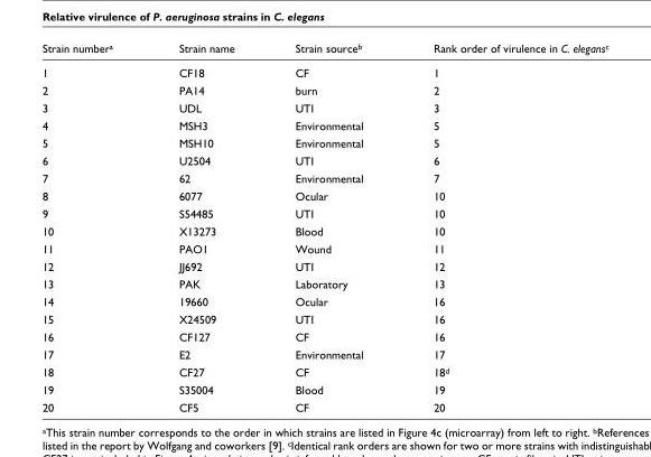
<table><thead><tr><td>Strain numbera</td><td>Strain name</td><td>Strain sourceb</td><td>Rank order of virulence in C. elegansc</td></tr></thead><tbody><tr><td>1</td><td>CF18</td><td>CF</td><td>1</td></tr><tr><td>2</td><td>PA14</td><td>burn</td><td>2</td></tr><tr><td>3</td><td>UDL</td><td>UTI</td><td>3</td></tr><tr><td>4</td><td>MSH3</td><td>Environmental</td><td>5</td></tr><tr><td>5</td><td>MSH10</td><td>Environmental</td><td>5</td></tr><tr><td>6</td><td>U2504</td><td>UTI</td><td>6</td></tr><tr><td>7</td><td>62</td><td>Environmental</td><td>7</td></tr><tr><td>8</td><td>6077</td><td>Ocular</td><td>10</td></tr><tr><td>9</td><td>S54485</td><td>UTI</td><td>10</td></tr><tr><td>10</td><td>X13273</td><td>Blood</td><td>10</td></tr><tr><td>11</td><td>PAO1</td><td>Wound</td><td>11</td></tr><tr><td>12</td><td>JJ692</td><td>UTI</td><td>12</td></tr><tr><td>13</td><td>PAK</td><td>Laboratory</td><td>13</td></tr><tr><td>14</td><td>19660</td><td>Ocular</td><td>16</td></tr><tr><td>15</td><td>X24509</td><td>UTI</td><td>16</td></tr><tr><td>16</td><td>CF127</td><td>CF</td><td>16</td></tr><tr><td>17</td><td>E2</td><td>Environmental</td><td>17</td></tr><tr><td>18</td><td>CF27</td><td>CF</td><td>18d</td></tr><tr><td>19</td><td>S35004</td><td>Blood</td><td>19</td></tr><tr><td>20</td><td>CF5</td><td>CF</td><td>20</td></tr></tbody></table>